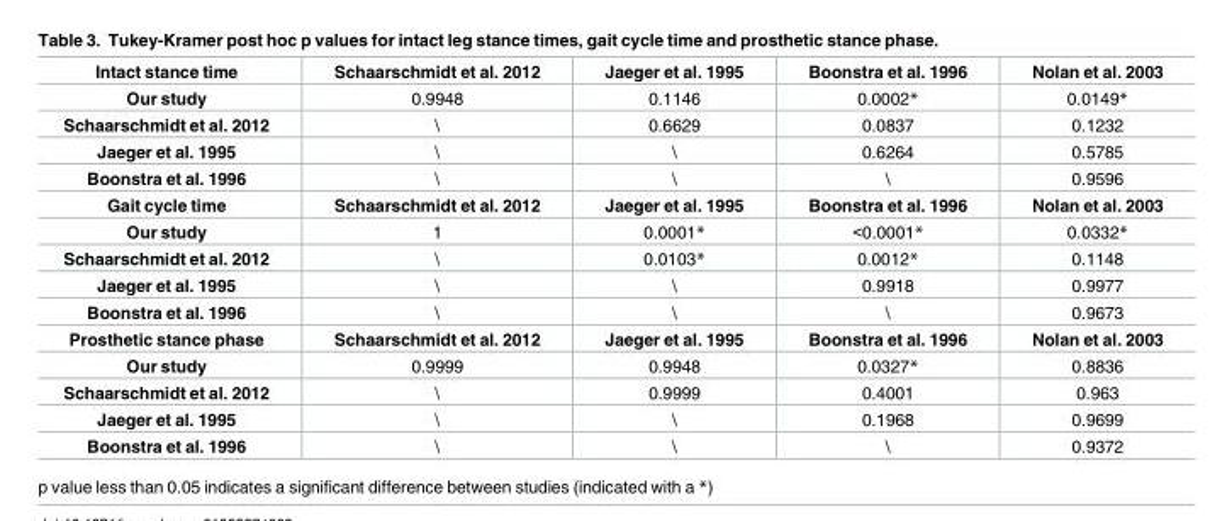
<table><tbody><tr><td>Intact stance time</td><td>Schaarschmidt et al. 2012</td><td>Jaeger et al. 1995</td><td>Boonstra et al. 1996</td><td>Nolan et al. 2003</td></tr><tr><td>Our study</td><td>0.9948</td><td>0.1146</td><td>0.0002*</td><td>0.0149*</td></tr><tr><td>Schaarschmidt et al. 2012</td><td>\</td><td>0.6629</td><td>0.0837</td><td>0.1232</td></tr><tr><td>Jaeger et al. 1995</td><td>\</td><td>\</td><td>0.6264</td><td>0.5785</td></tr><tr><td>Boonstra et al. 1996</td><td>\</td><td>\</td><td>\</td><td>0.9596</td></tr><tr><td>Gait cycle time</td><td>Schaarschmidt et al. 2012</td><td>Jaeger et al. 1995</td><td>Boonstra et al. 1996</td><td>Nolan et al. 2003</td></tr><tr><td>Our study</td><td>1</td><td>0.0001*</td><td>&lt;0.0001*</td><td>0.0332*</td></tr><tr><td>Schaarschmidt et al. 2012</td><td>\</td><td>0.0103*</td><td>0.0012*</td><td>0.1148</td></tr><tr><td>Jaeger et al. 1995</td><td>\</td><td>\</td><td>0.9918</td><td>0.9977</td></tr><tr><td>Boonstra et al. 1996</td><td>\</td><td>\</td><td>\</td><td>0.9673</td></tr><tr><td>Prosthetic stance phase</td><td>Schaarschmidt et al. 2012</td><td>Jaeger et al. 1995</td><td>Boonstra et al. 1996</td><td>Nolan et al. 2003</td></tr><tr><td>Our study</td><td>0.9999</td><td>0.9948</td><td>0.0327*</td><td>0.8836</td></tr><tr><td>Schaarschmidt et al. 2012</td><td>\</td><td>0.9999</td><td>0.4001</td><td>0.963</td></tr><tr><td>Jaeger et al. 1995</td><td>\</td><td>\</td><td>0.1968</td><td>0.9699</td></tr><tr><td>Boonstra et al. 1996</td><td>\</td><td>\</td><td>\</td><td>0.9372</td></tr></tbody></table>